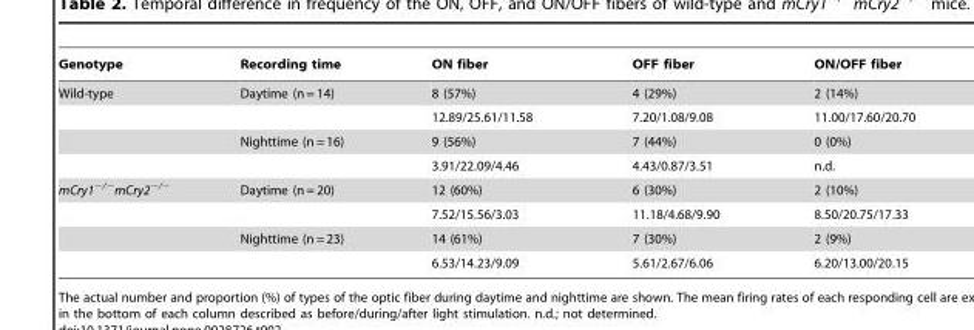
<table><thead><tr><td>Genotype</td><td>Recording time</td><td>ON fiber</td><td>OFF fiber</td><td>ON/OFF fiber</td></tr></thead><tbody><tr><td rowspan="4">Wild-type</td><td>Daytime (n = 14)</td><td>8 (57%)</td><td>4 (29%)</td><td>2 (14%)</td></tr><tr><td></td><td>12.89/25.61/11.58</td><td>7.20/1.08/9.08</td><td>11.00/17.60/20.70</td></tr><tr><td>Nighttime (n = 16)</td><td>9 (56%)</td><td>7 (44%)</td><td>0 (0%)</td></tr><tr><td></td><td>3.91/22.09/4.46</td><td>4.43/0.87/3.51</td><td>n.d.</td></tr><tr><td rowspan="4">mCry1<sup>−/−</sup>mCry2<sup>−/−</sup></td><td>Daytime (n = 20)</td><td>12 (60%)</td><td>6 (30%)</td><td>2 (10%)</td></tr><tr><td></td><td>7.52/15.56/3.03</td><td>11.18/4.68/9.90</td><td>8.50/20.75/17.33</td></tr><tr><td>Nighttime (n = 23)</td><td>14 (61%)</td><td>7 (30%)</td><td>2 (9%)</td></tr><tr><td></td><td>6.53/14.23/9.09</td><td>5.61/2.67/6.06</td><td>6.20/13.00/20.15</td></tr></tbody></table>